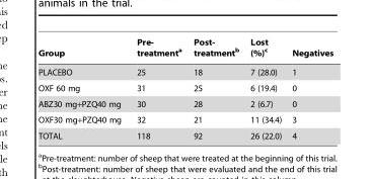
<table><thead><tr><td>Group</td><td>Pre- treatment<sup>a</sup></td><td>Post- treatment<sup>b</sup></td><td>Lost (%)<sup>c</sup></td><td>Negatives</td></tr></thead><tbody><tr><td>PLACEBO</td><td>25</td><td>18</td><td>7 (28.0)</td><td>1</td></tr><tr><td>OXF 60 mg</td><td>31</td><td>25</td><td>6 (19.4)</td><td>0</td></tr><tr><td>ABZ30 mg+PZQ40 mg</td><td>30</td><td>28</td><td>2 (6.7)</td><td>0</td></tr><tr><td>OXF30 mg+PZQ40 mg</td><td>32</td><td>21</td><td>11 (34.4)</td><td>3</td></tr><tr><td>TOTAL</td><td>118</td><td>92</td><td>26 (22.0)</td><td>4</td></tr></tbody></table>